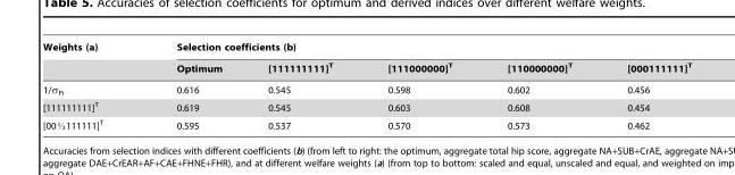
<table><thead><tr><td rowspan="2">Weights (a)</td><td colspan="5">Selection coefficients (b)</td></tr><tr><td>Optimum</td><td>[111111111]<sup>T</sup></td><td>[111000000]<sup>T</sup></td><td>[110000000]<sup>T</sup></td><td>[000111111]<sup>T</sup></td></tr></thead><tbody><tr><td>1/σ<sub>Pi</sub></td><td>0.616</td><td>0.545</td><td>0.598</td><td>0.602</td><td>0.456</td></tr><tr><td>[111111111]<sup>T</sup></td><td>0.619</td><td>0.545</td><td>0.603</td><td>0.608</td><td>0.454</td></tr><tr><td>[00K111111]T</td><td>0.595</td><td>0.537</td><td>0.570</td><td>0.573</td><td>0.462</td></tr></tbody></table>